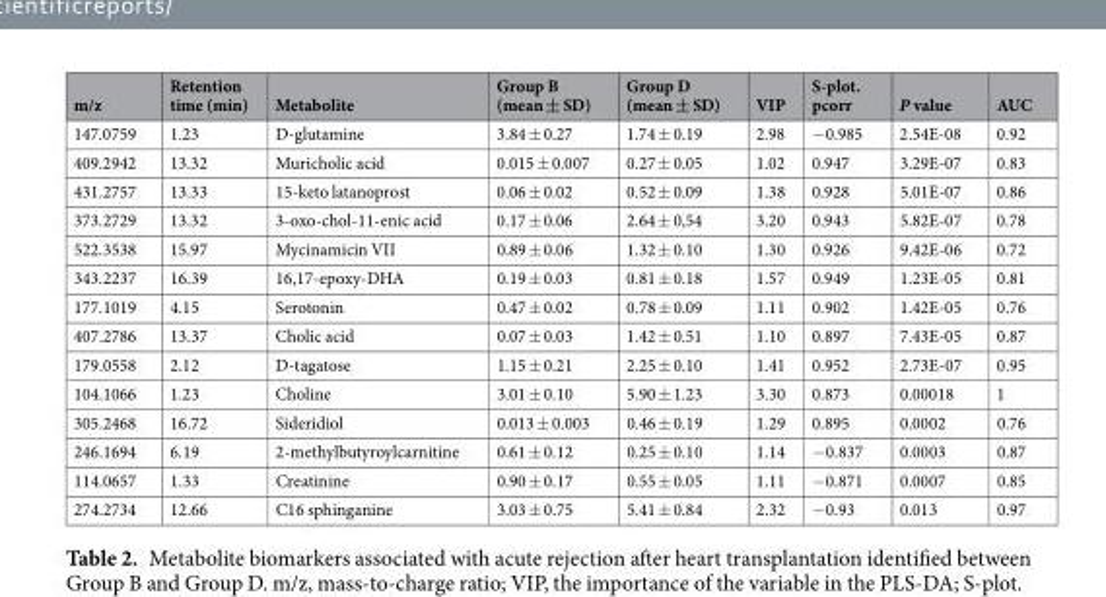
<table><thead><tr><td>m/z</td><td>Retention time (min)</td><td>Metabolite</td><td>Group B (mean ± SD)</td><td>Group D (mean ± SD)</td><td>VIP</td><td>S-plot. pcorr</td><td>P value</td><td>AUC</td></tr></thead><tbody><tr><td>147.0759</td><td>1.23</td><td>D-glutamine</td><td>3.84 ± 0.27</td><td>1.74 ± 0.19</td><td>2.98</td><td>−0.985</td><td>2.54E-08</td><td>0.92</td></tr><tr><td>409.2942</td><td>13.32</td><td>Muricholic acid</td><td>0.015 ± 0.007</td><td>0.27 ± 0.05</td><td>1.02</td><td>0.947</td><td>3.29E-07</td><td>0.83</td></tr><tr><td>431.2757</td><td>13.33</td><td>15-keto latanoprost</td><td>0.06 ± 0.02</td><td>0.52 ± 0.09</td><td>1.38</td><td>0.928</td><td>5.01E-07</td><td>0.86</td></tr><tr><td>373.2729</td><td>13.32</td><td>3-oxo-chol-11-enic acid</td><td>0.17 ± 0.06</td><td>2.64 ± 0,54</td><td>3.20</td><td>0.943</td><td>5.82E-07</td><td>0.78</td></tr><tr><td>522.3538</td><td>15.97</td><td>Mycinamicin VII</td><td>0.89 ± 0.06</td><td>1.32 ± 0.10</td><td>1.30</td><td>0.926</td><td>9.42E-06</td><td>0.72</td></tr><tr><td>343.2237</td><td>16.39</td><td>16,17-epoxy-DHA</td><td>0.19 ± 0.03</td><td>0.81 ± 0.18</td><td>1.57</td><td>0.949</td><td>1.23E-05</td><td>0.81</td></tr><tr><td>177.1019</td><td>4.15</td><td>Serotonin</td><td>0.47 ± 0.02</td><td>0.78 ± 0.09</td><td>1.11</td><td>0.902</td><td>1.42E-05</td><td>0.76</td></tr><tr><td>407.2786</td><td>13.37</td><td>Cholic acid</td><td>0.07 ± 0.03</td><td>1.42 ± 0.51</td><td>1.10</td><td>0.897</td><td>7.43E-05</td><td>0.87</td></tr><tr><td>179.0558</td><td>2.12</td><td>D-tagatose</td><td>1.15 ± 0.21</td><td>2.25 ± 0.10</td><td>1.41</td><td>0.952</td><td>2.73E-07</td><td>0.95</td></tr><tr><td>104.1066</td><td>1.23</td><td>Choline</td><td>3.01 ± 0.10</td><td>5.90 ± 1.23</td><td>3.30</td><td>0.873</td><td>0.00018</td><td>1</td></tr><tr><td>305.2468</td><td>16.72</td><td>Sideridiol</td><td>0.013 ± 0.003</td><td>0.46 ± 0.19</td><td>1.29</td><td>0.895</td><td>0.0002</td><td>0.76</td></tr><tr><td>246.1694</td><td>6.19</td><td>2-methylbutyroylcarnitine</td><td>0.61 ± 0.12</td><td>0.25 ± 0.10</td><td>1.14</td><td>−0.837</td><td>0.0003</td><td>0.87</td></tr><tr><td>114.0657</td><td>1.33</td><td>Creatinine</td><td>0.90 ± 0.17</td><td>0.55 ± 0.05</td><td>1.11</td><td>−0.871</td><td>0.0007</td><td>0.85</td></tr><tr><td>274.2734</td><td>12.66</td><td>C16 sphinganine</td><td>3.03 ± 0.75</td><td>5.41 ± 0.84</td><td>2.32</td><td>−0.93</td><td>0.013</td><td>0.97</td></tr></tbody></table>